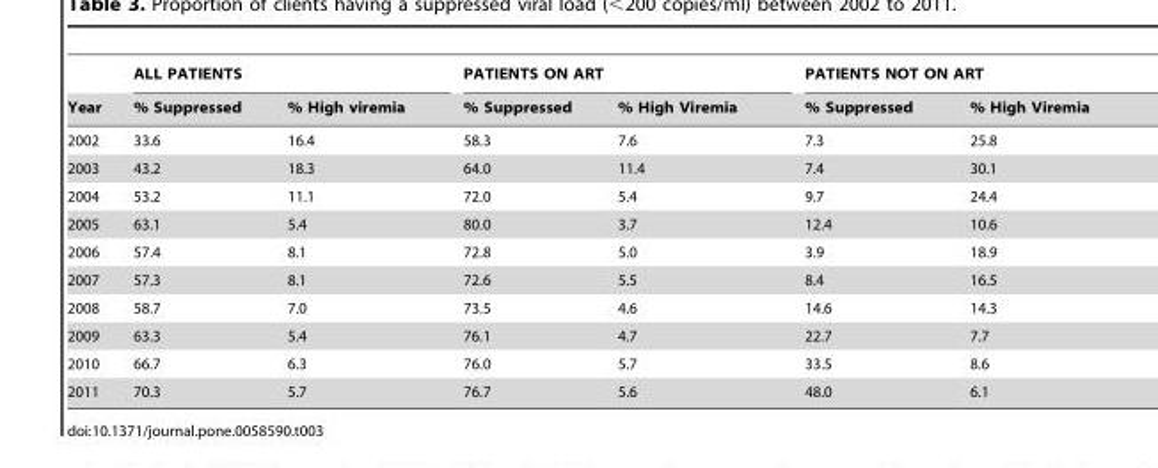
<table><thead><tr><td rowspan="2">Year</td><td colspan="2">ALL PATIENTS</td><td colspan="2">PATIENTS ON ART</td><td colspan="2">PATIENTS NOT ON ART</td></tr><tr><td>% Suppressed</td><td>% High viremia</td><td>% Suppressed</td><td>% High Viremia</td><td>% Suppressed</td><td>% High Viremia</td></tr></thead><tbody><tr><td>2002</td><td>33.6</td><td>16.4</td><td>58.3</td><td>7.6</td><td>7.3</td><td>25.8</td></tr><tr><td>2003</td><td>43.2</td><td>18.3</td><td>64.0</td><td>11.4</td><td>7.4</td><td>30.1</td></tr><tr><td>2004</td><td>53.2</td><td>11.1</td><td>72.0</td><td>5.4</td><td>9.7</td><td>24.4</td></tr><tr><td>2005</td><td>63.1</td><td>5.4</td><td>80.0</td><td>3.7</td><td>12.4</td><td>10.6</td></tr><tr><td>2006</td><td>57.4</td><td>8.1</td><td>72.8</td><td>5.0</td><td>3.9</td><td>18.9</td></tr><tr><td>2007</td><td>57.3</td><td>8.1</td><td>72.6</td><td>5.5</td><td>8.4</td><td>16.5</td></tr><tr><td>2008</td><td>58.7</td><td>7.0</td><td>73.5</td><td>4.6</td><td>14.6</td><td>14.3</td></tr><tr><td>2009</td><td>63.3</td><td>5.4</td><td>76.1</td><td>4.7</td><td>22.7</td><td>7.7</td></tr><tr><td>2010</td><td>66.7</td><td>6.3</td><td>76.0</td><td>5.7</td><td>33.5</td><td>8.6</td></tr><tr><td>2011</td><td>70.3</td><td>5.7</td><td>76.7</td><td>5.6</td><td>48.0</td><td>6.1</td></tr></tbody></table>